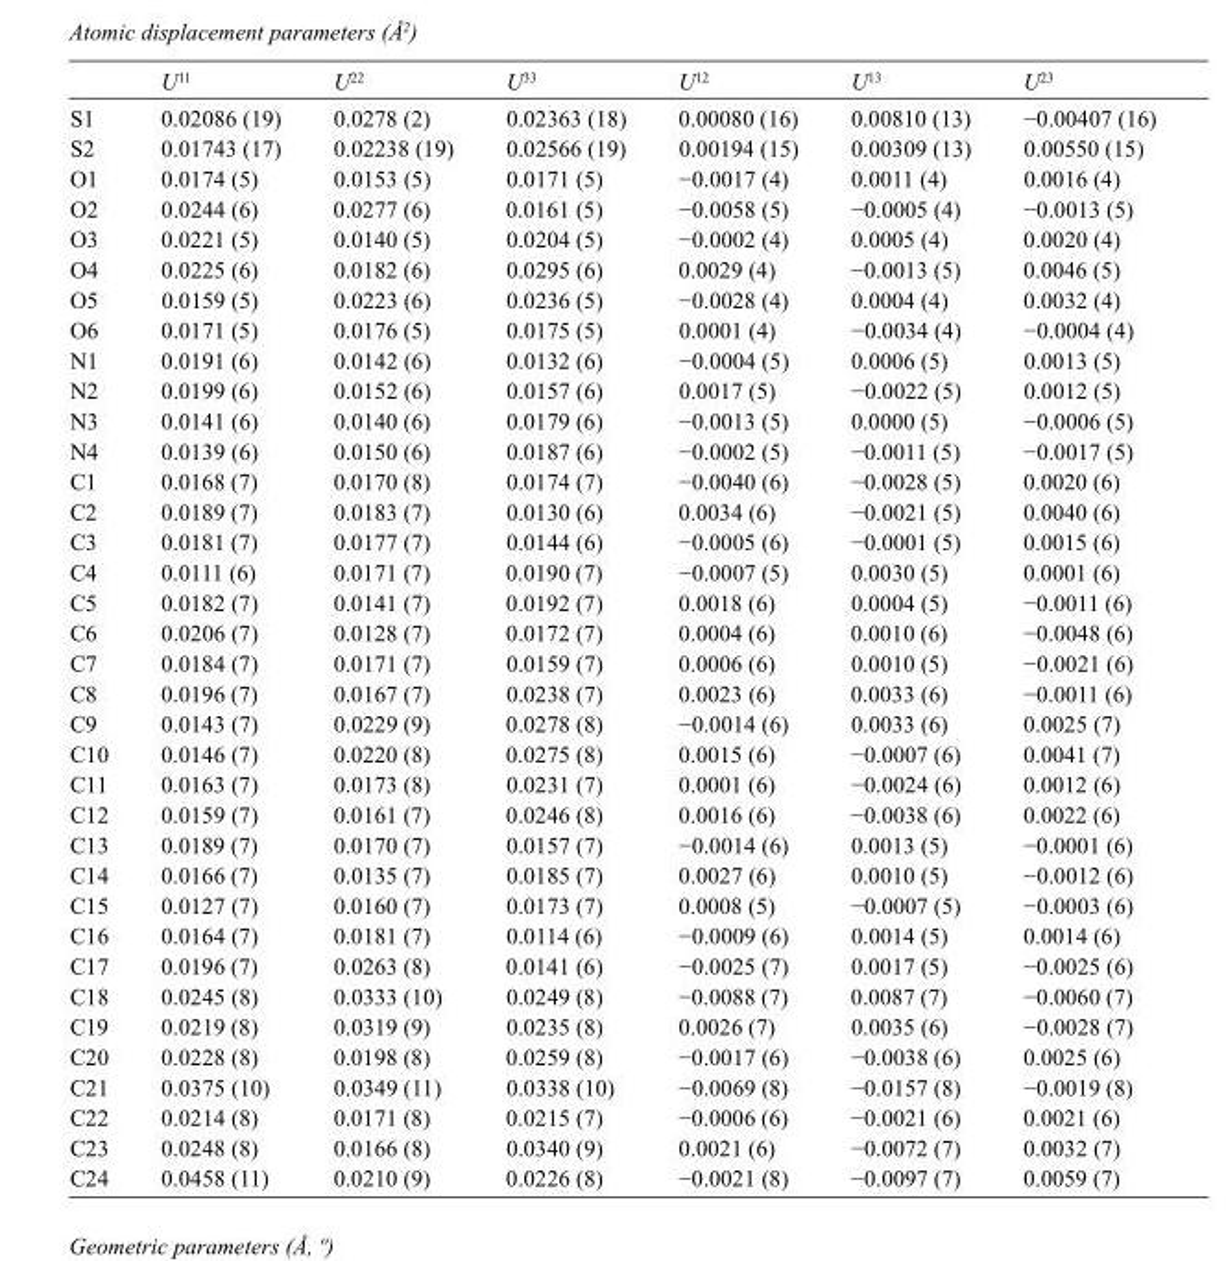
<table><thead><tr><td></td><td>U<sup>11</sup></td><td>U<sup>22</sup></td><td>U<sup>33</sup></td><td>U<sup>12</sup></td><td>U<sup>13</sup></td><td>U<sup>23</sup></td></tr></thead><tbody><tr><td>S1</td><td>0.02086 (19)</td><td>0.0278 (2)</td><td>0.02363 (18)</td><td>0.00080 (16)</td><td>0.00810 (13)</td><td>−0.00407 (16)</td></tr><tr><td>S2</td><td>0.01743 (17)</td><td>0.02238 (19)</td><td>0.02566 (19)</td><td>0.00194 (15)</td><td>0.00309 (13)</td><td>0.00550 (15)</td></tr><tr><td>O1</td><td>0.0174 (5)</td><td>0.0153 (5)</td><td>0.0171 (5)</td><td>−0.0017 (4)</td><td>0.0011 (4)</td><td>0.0016 (4)</td></tr><tr><td>O2</td><td>0.0244 (6)</td><td>0.0277 (6)</td><td>0.0161 (5)</td><td>−0.0058 (5)</td><td>−0.0005 (4)</td><td>−0.0013 (5)</td></tr><tr><td>O3</td><td>0.0221 (5)</td><td>0.0140 (5)</td><td>0.0204 (5)</td><td>−0.0002 (4)</td><td>0.0005 (4)</td><td>0.0020 (4)</td></tr><tr><td>O4</td><td>0.0225 (6)</td><td>0.0182 (6)</td><td>0.0295 (6)</td><td>0.0029 (4)</td><td>−0.0013 (5)</td><td>0.0046 (5)</td></tr><tr><td>O5</td><td>0.0159 (5)</td><td>0.0223 (6)</td><td>0.0236 (5)</td><td>−0.0028 (4)</td><td>0.0004 (4)</td><td>0.0032 (4)</td></tr><tr><td>O6</td><td>0.0171 (5)</td><td>0.0176 (5)</td><td>0.0175 (5)</td><td>0.0001 (4)</td><td>−0.0034 (4)</td><td>−0.0004 (4)</td></tr><tr><td>N1</td><td>0.0191 (6)</td><td>0.0142 (6)</td><td>0.0132 (6)</td><td>−0.0004 (5)</td><td>0.0006 (5)</td><td>0.0013 (5)</td></tr><tr><td>N2</td><td>0.0199 (6)</td><td>0.0152 (6)</td><td>0.0157 (6)</td><td>0.0017 (5)</td><td>−0.0022 (5)</td><td>0.0012 (5)</td></tr><tr><td>N3</td><td>0.0141 (6)</td><td>0.0140 (6)</td><td>0.0179 (6)</td><td>−0.0013 (5)</td><td>0.0000 (5)</td><td>−0.0006 (5)</td></tr><tr><td>N4</td><td>0.0139 (6)</td><td>0.0150 (6)</td><td>0.0187 (6)</td><td>−0.0002 (5)</td><td>−0.0011 (5)</td><td>−0.0017 (5)</td></tr><tr><td>C1</td><td>0.0168 (7)</td><td>0.0170 (8)</td><td>0.0174 (7)</td><td>−0.0040 (6)</td><td>−0.0028 (5)</td><td>0.0020 (6)</td></tr><tr><td>C2</td><td>0.0189 (7)</td><td>0.0183 (7)</td><td>0.0130 (6)</td><td>0.0034 (6)</td><td>−0.0021 (5)</td><td>0.0040 (6)</td></tr><tr><td>C3</td><td>0.0181 (7)</td><td>0.0177 (7)</td><td>0.0144 (6)</td><td>−0.0005 (6)</td><td>−0.0001 (5)</td><td>0.0015 (6)</td></tr><tr><td>C4</td><td>0.0111 (6)</td><td>0.0171 (7)</td><td>0.0190 (7)</td><td>−0.0007 (5)</td><td>0.0030 (5)</td><td>0.0001 (6)</td></tr><tr><td>C5</td><td>0.0182 (7)</td><td>0.0141 (7)</td><td>0.0192 (7)</td><td>0.0018 (6)</td><td>0.0004 (5)</td><td>−0.0011 (6)</td></tr><tr><td>C6</td><td>0.0206 (7)</td><td>0.0128 (7)</td><td>0.0172 (7)</td><td>0.0004 (6)</td><td>0.0010 (6)</td><td>−0.0048 (6)</td></tr><tr><td>C7</td><td>0.0184 (7)</td><td>0.0171 (7)</td><td>0.0159 (7)</td><td>0.0006 (6)</td><td>0.0010 (5)</td><td>−0.0021 (6)</td></tr><tr><td>C8</td><td>0.0196 (7)</td><td>0.0167 (7)</td><td>0.0238 (7)</td><td>0.0023 (6)</td><td>0.0033 (6)</td><td>−0.0011 (6)</td></tr><tr><td>C9</td><td>0.0143 (7)</td><td>0.0229 (9)</td><td>0.0278 (8)</td><td>−0.0014 (6)</td><td>0.0033 (6)</td><td>0.0025 (7)</td></tr><tr><td>C10</td><td>0.0146 (7)</td><td>0.0220 (8)</td><td>0.0275 (8)</td><td>0.0015 (6)</td><td>−0.0007 (6)</td><td>0.0041 (7)</td></tr><tr><td>C11</td><td>0.0163 (7)</td><td>0.0173 (8)</td><td>0.0231 (7)</td><td>0.0001 (6)</td><td>−0.0024 (6)</td><td>0.0012 (6)</td></tr><tr><td>C12</td><td>0.0159 (7)</td><td>0.0161 (7)</td><td>0.0246 (8)</td><td>0.0016 (6)</td><td>−0.0038 (6)</td><td>0.0022 (6)</td></tr><tr><td>C13</td><td>0.0189 (7)</td><td>0.0170 (7)</td><td>0.0157 (7)</td><td>−0.0014 (6)</td><td>0.0013 (5)</td><td>−0.0001 (6)</td></tr><tr><td>C14</td><td>0.0166 (7)</td><td>0.0135 (7)</td><td>0.0185 (7)</td><td>0.0027 (6)</td><td>0.0010 (5)</td><td>−0.0012 (6)</td></tr><tr><td>C15</td><td>0.0127 (7)</td><td>0.0160 (7)</td><td>0.0173 (7)</td><td>0.0008 (5)</td><td>−0.0007 (5)</td><td>−0.0003 (6)</td></tr><tr><td>C16</td><td>0.0164 (7)</td><td>0.0181 (7)</td><td>0.0114 (6)</td><td>−0.0009 (6)</td><td>0.0014 (5)</td><td>0.0014 (6)</td></tr><tr><td>C17</td><td>0.0196 (7)</td><td>0.0263 (8)</td><td>0.0141 (6)</td><td>−0.0025 (7)</td><td>0.0017 (5)</td><td>−0.0025 (6)</td></tr><tr><td>C18</td><td>0.0245 (8)</td><td>0.0333 (10)</td><td>0.0249 (8)</td><td>−0.0088 (7)</td><td>0.0087 (7)</td><td>−0.0060 (7)</td></tr><tr><td>C19</td><td>0.0219 (8)</td><td>0.0319 (9)</td><td>0.0235 (8)</td><td>0.0026 (7)</td><td>0.0035 (6)</td><td>−0.0028 (7)</td></tr><tr><td>C20</td><td>0.0228 (8)</td><td>0.0198 (8)</td><td>0.0259 (8)</td><td>−0.0017 (6)</td><td>−0.0038 (6)</td><td>0.0025 (6)</td></tr><tr><td>C21</td><td>0.0375 (10)</td><td>0.0349 (11)</td><td>0.0338 (10)</td><td>−0.0069 (8)</td><td>−0.0157 (8)</td><td>−0.0019 (8)</td></tr><tr><td>C22</td><td>0.0214 (8)</td><td>0.0171 (8)</td><td>0.0215 (7)</td><td>−0.0006 (6)</td><td>−0.0021 (6)</td><td>0.0021 (6)</td></tr><tr><td>C23</td><td>0.0248 (8)</td><td>0.0166 (8)</td><td>0.0340 (9)</td><td>0.0021 (6)</td><td>−0.0072 (7)</td><td>0.0032 (7)</td></tr><tr><td>C24</td><td>0.0458 (11)</td><td>0.0210 (9)</td><td>0.0226 (8)</td><td>−0.0021 (8)</td><td>−0.0097 (7)</td><td>0.0059 (7)</td></tr></tbody></table>